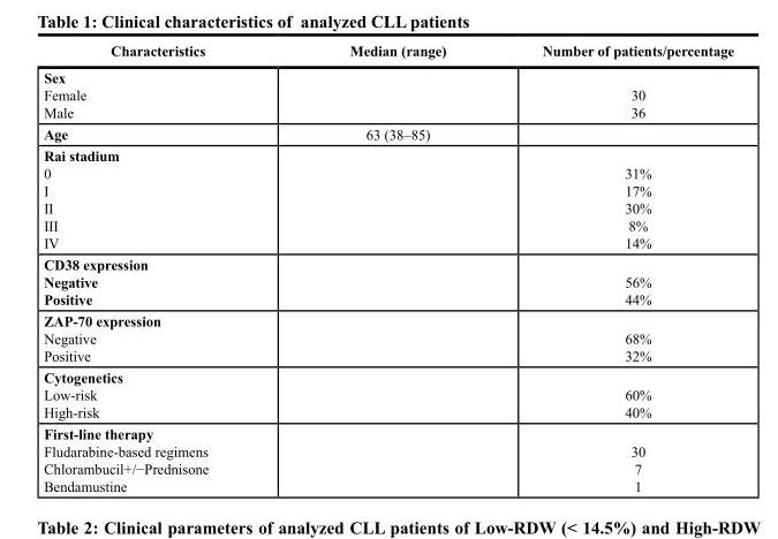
<table><thead><tr><td>Characteristics</td><td>Median (range)</td><td>Number of patients/percentage</td></tr></thead><tbody><tr><td colspan="3">Sex</td></tr><tr><td>Female</td><td></td><td>30</td></tr><tr><td>Male</td><td></td><td>36</td></tr><tr><td>Age</td><td>63 (38–85)</td><td></td></tr><tr><td colspan="3">Rai stadium</td></tr><tr><td>0</td><td></td><td>31%</td></tr><tr><td>I</td><td></td><td>17%</td></tr><tr><td>II</td><td></td><td>30%</td></tr><tr><td>III</td><td></td><td>8%</td></tr><tr><td>IV</td><td></td><td>14%</td></tr><tr><td colspan="3">CD38 expression</td></tr><tr><td>Negative</td><td></td><td>56%</td></tr><tr><td>Positive</td><td></td><td>44%</td></tr><tr><td colspan="3">ZAP-70 expression</td></tr><tr><td>Negative</td><td></td><td>68%</td></tr><tr><td>Positive</td><td></td><td>32%</td></tr><tr><td colspan="3">Cytogenetics</td></tr><tr><td>Low-risk</td><td></td><td>60%</td></tr><tr><td>High-risk</td><td></td><td>40%</td></tr><tr><td colspan="3">First-line therapy</td></tr><tr><td>Fludarabine-based regimens</td><td></td><td>30</td></tr><tr><td>Chlorambucil+/−Prednisone</td><td></td><td>7</td></tr><tr><td>Bendamustine</td><td></td><td>1</td></tr></tbody></table>